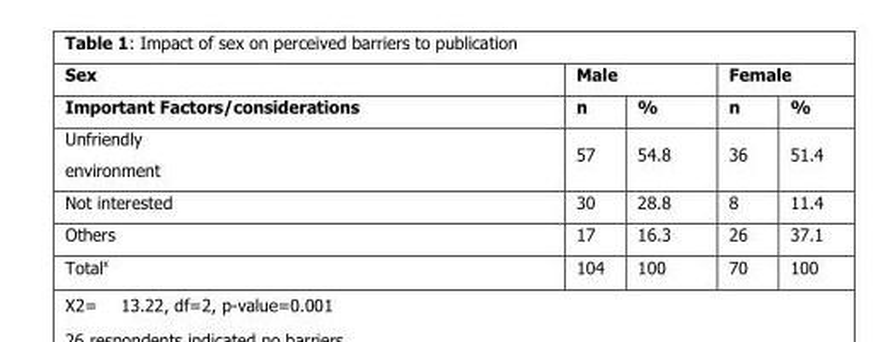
<table><thead><tr><td rowspan="2">Sex Important Factors/considerations</td><td colspan="2">Male</td><td colspan="2">Female</td></tr><tr><td>n</td><td>%</td><td>n</td><td>%</td></tr></thead><tbody><tr><td>Unfriendly environment</td><td>57</td><td>54.8</td><td>36</td><td>51.4</td></tr><tr><td>Not interested</td><td>30</td><td>28.8</td><td>8</td><td>11.4</td></tr><tr><td>Others</td><td>17</td><td>16.3</td><td>26</td><td>37.1</td></tr><tr><td>Total<sup>x</sup></td><td>104</td><td>100</td><td>70</td><td>100</td></tr></tbody></table>